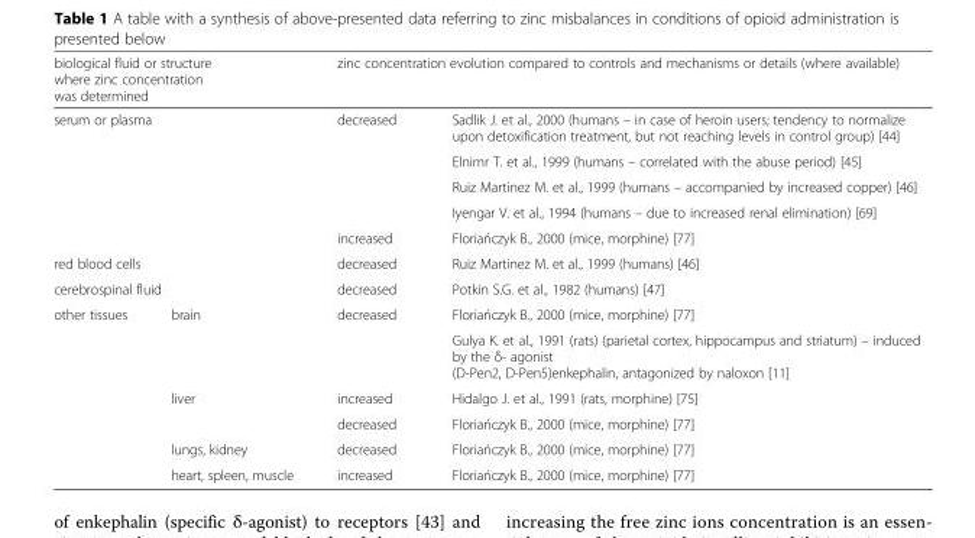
<table><thead><tr><td colspan="2">biological fluid or structure where zinc concentration was determined</td><td colspan="2">zinc concentration evolution compared to controls and mechanisms or details (where available)</td></tr></thead><tbody><tr><td rowspan="5" colspan="2">serum or plasma</td><td rowspan="4">decreased</td><td>Sadlik J. et al., 2000 (humans – in case of heroin users; tendency to normalize upon detoxification treatment, but not reaching levels in control group) [44]</td></tr><tr><td>Elnimr T. et al., 1999 (humans – correlated with the abuse period) [45]</td></tr><tr><td>Ruiz Martinez M. et al., 1999 (humans – accompanied by increased copper) [46]</td></tr><tr><td>Iyengar V. et al., 1994 (humans – due to increased renal elimination) [69]</td></tr><tr><td>increased</td><td>Floriańczyk B., 2000 (mice, morphine) [77]</td></tr><tr><td colspan="2">red blood cells</td><td>decreased</td><td>Ruiz Martinez M. et al., 1999 (humans) [46]</td></tr><tr><td colspan="2">cerebrospinal fluid</td><td>decreased</td><td>Potkin S.G. et al., 1982 (humans) [47]</td></tr><tr><td rowspan="6">other tissues</td><td rowspan="2">brain</td><td rowspan="2">decreased</td><td>Floriańczyk B., 2000 (mice, morphine) [77]</td></tr><tr><td>Gulya K. et al., 1991 (rats) (parietal cortex, hippocampus and striatum) – induced by the δ- agonist (D-Pen2, D-Pen5)enkephalin, antagonized by naloxon [11]</td></tr><tr><td rowspan="2">liver</td><td>increased</td><td>Hidalgo J. et al., 1991 (rats, morphine) [75]</td></tr><tr><td>decreased</td><td>Floriańczyk B., 2000 (mice, morphine) [77]</td></tr><tr><td>lungs, kidney</td><td>decreased</td><td>Floriańczyk B., 2000 (mice, morphine) [77]</td></tr><tr><td>heart, spleen, muscle</td><td>increased</td><td>Floriańczyk B., 2000 (mice, morphine) [77]</td></tr></tbody></table>